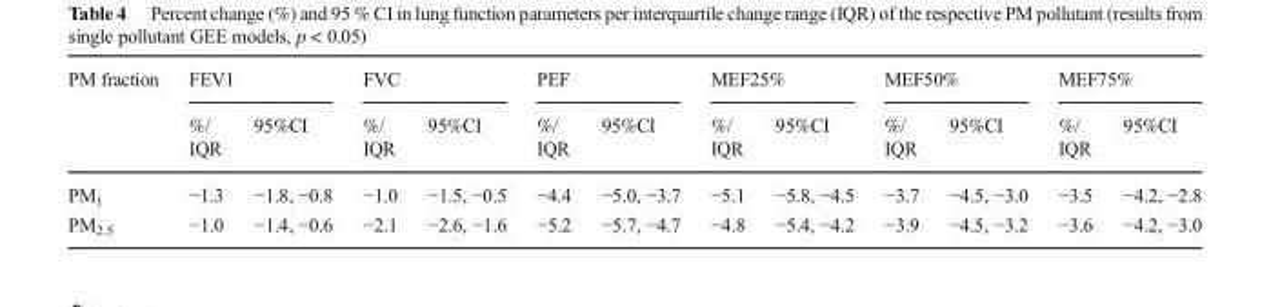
<table><thead><tr><td rowspan="2">PM fraction</td><td colspan="2">FEV1</td><td colspan="2">FVC</td><td colspan="2">PEF</td><td colspan="2">MEF25%</td><td colspan="2">MEF50%</td><td colspan="2">MEF75%</td></tr><tr><td>%/ IQR</td><td>95%CI</td><td>%/ IQR</td><td>95%CI</td><td>%/ IQR</td><td>95%CI</td><td>%/ IQR</td><td>95%CI</td><td>%/ IQR</td><td>95%CI</td><td>%/ IQR</td><td>95%CI</td></tr></thead><tbody><tr><td>PM<sub>1</sub></td><td>−1.3</td><td>−1.8, −0.8</td><td>−1.0</td><td>−1.5, −0.5</td><td>−4.4</td><td>−5.0, −3.7</td><td>−5.1</td><td>−5.8, −4.5</td><td>−3.7</td><td>−4.5, −3.0</td><td>−3.5</td><td>−4.2, −2.8</td></tr><tr><td>PM<sub>2.5</sub></td><td>−1.0</td><td>−1.4, −0.6</td><td>−2.1</td><td>−2.6, −1.6</td><td>−5.2</td><td>−5.7, −4.7</td><td>−4.8</td><td>−5.4, −4.2</td><td>−3.9</td><td>−4.5, −3.2</td><td>−3.6</td><td>−4.2, −3.0</td></tr></tbody></table>